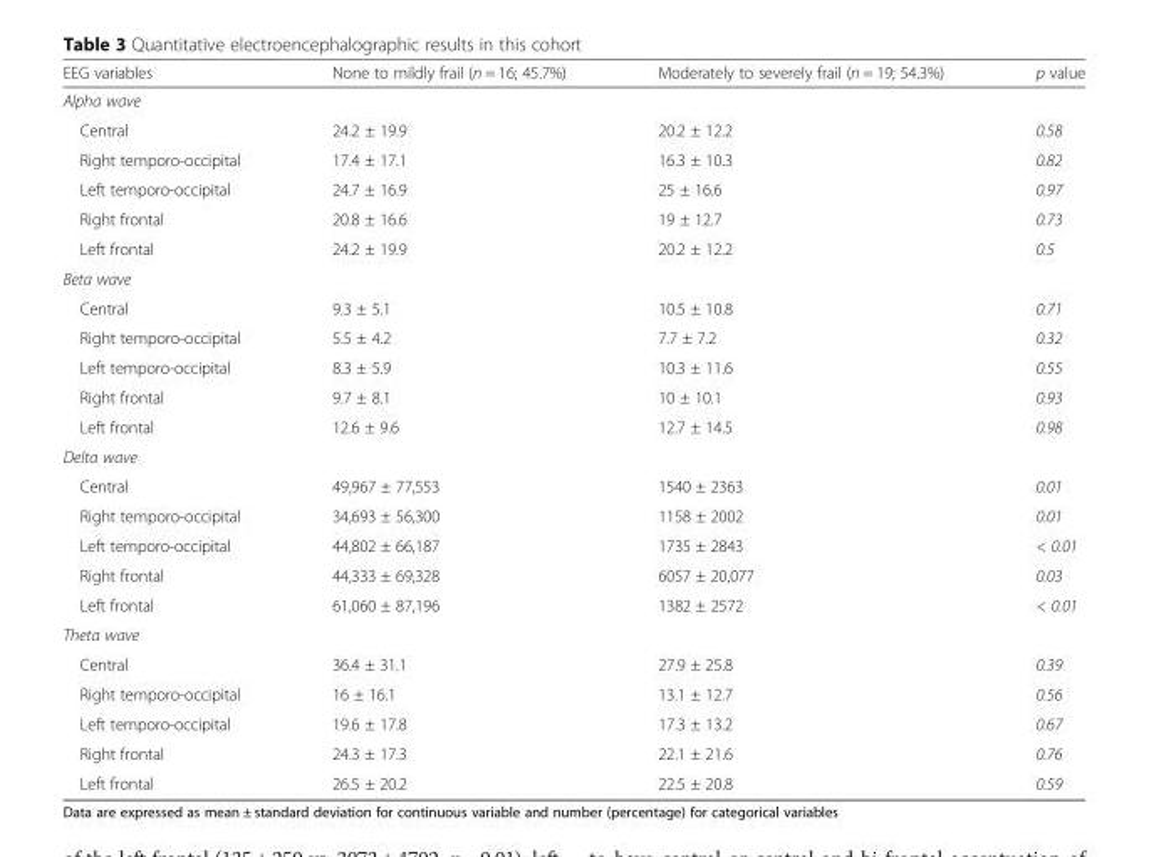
<table><thead><tr><td>EEG variables</td><td>None to mildly frail (n = 16; 45.7%)</td><td>Moderately to severely frail (n = 19; 54.3%)</td><td>p value</td></tr></thead><tbody><tr><td colspan="4">Alpha wave</td></tr><tr><td>Central</td><td>24.2 ± 19.9</td><td>20.2 ± 12.2</td><td>0.58</td></tr><tr><td>Right temporo-occipital</td><td>17.4 ± 17.1</td><td>16.3 ± 10.3</td><td>0.82</td></tr><tr><td>Left temporo-occipital</td><td>24.7 ± 16.9</td><td>25 ± 16.6</td><td>0.97</td></tr><tr><td>Right frontal</td><td>20.8 ± 16.6</td><td>19 ± 12.7</td><td>0.73</td></tr><tr><td>Left frontal</td><td>24.2 ± 19.9</td><td>20.2 ± 12.2</td><td>0.5</td></tr><tr><td colspan="4">Beta wave</td></tr><tr><td>Central</td><td>9.3 ± 5.1</td><td>10.5 ± 10.8</td><td>0.71</td></tr><tr><td>Right temporo-occipital</td><td>5.5 ± 4.2</td><td>7.7 ± 7.2</td><td>0.32</td></tr><tr><td>Left temporo-occipital</td><td>8.3 ± 5.9</td><td>10.3 ± 11.6</td><td>0.55</td></tr><tr><td>Right frontal</td><td>9.7 ± 8.1</td><td>10 ± 10.1</td><td>0.93</td></tr><tr><td>Left frontal</td><td>12.6 ± 9.6</td><td>12.7 ± 14.5</td><td>0.98</td></tr><tr><td colspan="4">Delta wave</td></tr><tr><td>Central</td><td>49,967 ± 77,553</td><td>1540 ± 2363</td><td>0.01</td></tr><tr><td>Right temporo-occipital</td><td>34,693 ± 56,300</td><td>1158 ± 2002</td><td>0.01</td></tr><tr><td>Left temporo-occipital</td><td>44,802 ± 66,187</td><td>1735 ± 2843</td><td>&lt; 0.01</td></tr><tr><td>Right frontal</td><td>44,333 ± 69,328</td><td>6057 ± 20,077</td><td>0.03</td></tr><tr><td>Left frontal</td><td>61,060 ± 87,196</td><td>1382 ± 2572</td><td>&lt; 0.01</td></tr><tr><td colspan="4">Theta wave</td></tr><tr><td>Central</td><td>36.4 ± 31.1</td><td>27.9 ± 25.8</td><td>0.39</td></tr><tr><td>Right temporo-occipital</td><td>16 ± 16.1</td><td>13.1 ± 12.7</td><td>0.56</td></tr><tr><td>Left temporo-occipital</td><td>19.6 ± 17.8</td><td>17.3 ± 13.2</td><td>0.67</td></tr><tr><td>Right frontal</td><td>24.3 ± 17.3</td><td>22.1 ± 21.6</td><td>0.76</td></tr><tr><td>Left frontal</td><td>26.5 ± 20.2</td><td>22.5 ± 20.8</td><td>0.59</td></tr></tbody></table>